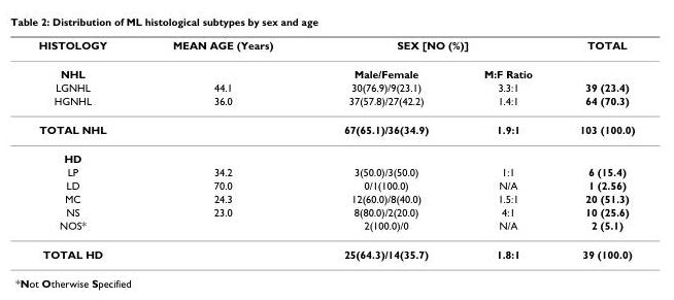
<table><thead><tr><td rowspan="2">HISTOLOGY NHL</td><td rowspan="2">MEAN AGE (Years)</td><td colspan="2">SEX [NO (%)]</td><td rowspan="2">TOTAL</td></tr><tr><td>Male/Female</td><td>M:F Ratio</td></tr></thead><tbody><tr><td>LGNHL</td><td>44.1</td><td>30(76.9)/9(23.1)</td><td>3.3:1</td><td>39 (23.4)</td></tr><tr><td>HGNHL</td><td>36.0</td><td>37(57.8)/27(42.2)</td><td>1.4:1</td><td>64 (70.3)</td></tr><tr><td>TOTAL NHL</td><td></td><td>67(65.1)/36(34.9)</td><td>1.9:1</td><td>103 (100.0)</td></tr><tr><td colspan="5">HD</td></tr><tr><td>LP</td><td>34.2</td><td>3(50.0)/3(50.0)</td><td>1:1</td><td>6 (15.4)</td></tr><tr><td>LD</td><td>70.0</td><td>0/1(100.0)</td><td>N/A</td><td>1 (2.56)</td></tr><tr><td>MC</td><td>24.3</td><td>12(60.0)/8(40.0)</td><td>1.5:1</td><td>20 (51.3)</td></tr><tr><td>NS</td><td>23.0</td><td>8(80.0)/2(20.0)</td><td>4:1</td><td>10 (25.6)</td></tr><tr><td>NOS*</td><td></td><td>2(100.0)/0</td><td>N/A</td><td>2 (5.1)</td></tr><tr><td>TOTAL HD</td><td></td><td>25(64.3)/14(35.7)</td><td>1.8:1</td><td>39 (100.0)</td></tr></tbody></table>